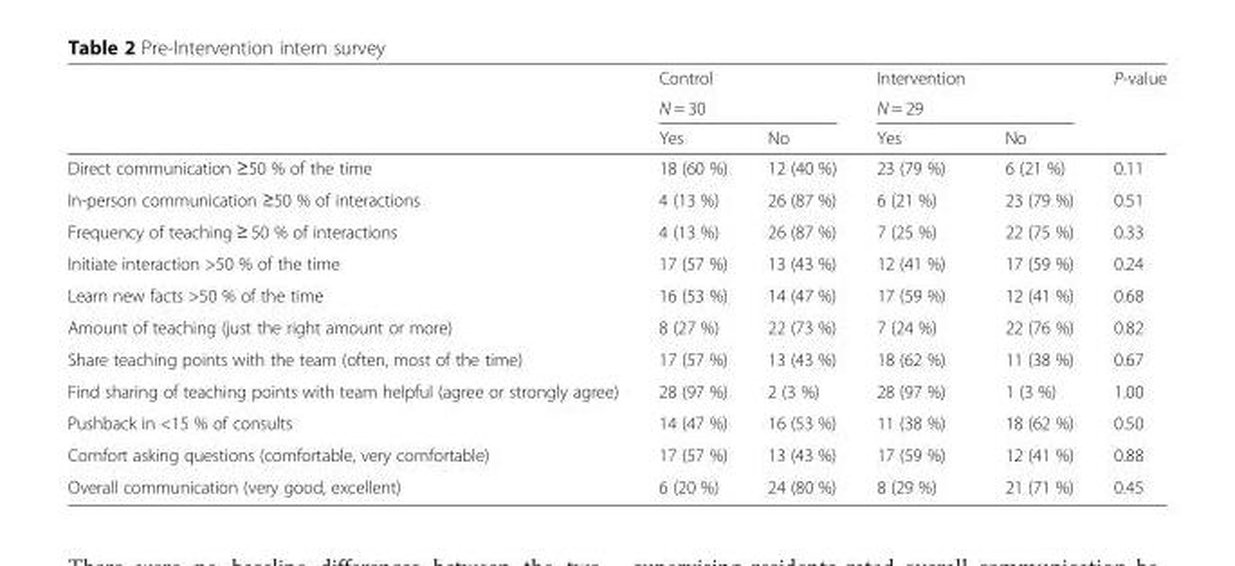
<table><thead><tr><td rowspan="3"></td><td>Control</td><td></td><td>Intervention</td><td></td><td rowspan="3">P-value</td></tr><tr><td colspan="2">N = 30</td><td colspan="2">N = 29</td></tr><tr><td>Yes</td><td>No</td><td>Yes</td><td>No</td></tr></thead><tbody><tr><td>Direct communication ≥50 % of the time</td><td>18 (60 %)</td><td>12 (40 %)</td><td>23 (79 %)</td><td>6 (21 %)</td><td>0.11</td></tr><tr><td>In-person communication ≥50 % of interactions</td><td>4 (13 %)</td><td>26 (87 %)</td><td>6 (21 %)</td><td>23 (79 %)</td><td>0.51</td></tr><tr><td>Frequency of teaching ≥ 50 % of interactions</td><td>4 (13 %)</td><td>26 (87 %)</td><td>7 (25 %)</td><td>22 (75 %)</td><td>0.33</td></tr><tr><td>Initiate interaction &gt;50 % of the time</td><td>17 (57 %)</td><td>13 (43 %)</td><td>12 (41 %)</td><td>17 (59 %)</td><td>0.24</td></tr><tr><td>Learn new facts &gt;50 % of the time</td><td>16 (53 %)</td><td>14 (47 %)</td><td>17 (59 %)</td><td>12 (41 %)</td><td>0.68</td></tr><tr><td>Amount of teaching (just the right amount or more)</td><td>8 (27 %)</td><td>22 (73 %)</td><td>7 (24 %)</td><td>22 (76 %)</td><td>0.82</td></tr><tr><td>Share teaching points with the team (often, most of the time)</td><td>17 (57 %)</td><td>13 (43 %)</td><td>18 (62 %)</td><td>11 (38 %)</td><td>0.67</td></tr><tr><td>Find sharing of teaching points with team helpful (agree or strongly agree)</td><td>28 (97 %)</td><td>2 (3 %)</td><td>28 (97 %)</td><td>1 (3 %)</td><td>1.00</td></tr><tr><td>Pushback in &lt;15 % of consults</td><td>14 (47 %)</td><td>16 (53 %)</td><td>11 (38 %)</td><td>18 (62 %)</td><td>0.50</td></tr><tr><td>Comfort asking questions (comfortable, very comfortable)</td><td>17 (57 %)</td><td>13 (43 %)</td><td>17 (59 %)</td><td>12 (41 %)</td><td>0.88</td></tr><tr><td>Overall communication (very good, excellent)</td><td>6 (20 %)</td><td>24 (80 %)</td><td>8 (29 %)</td><td>21 (71 %)</td><td>0.45</td></tr></tbody></table>